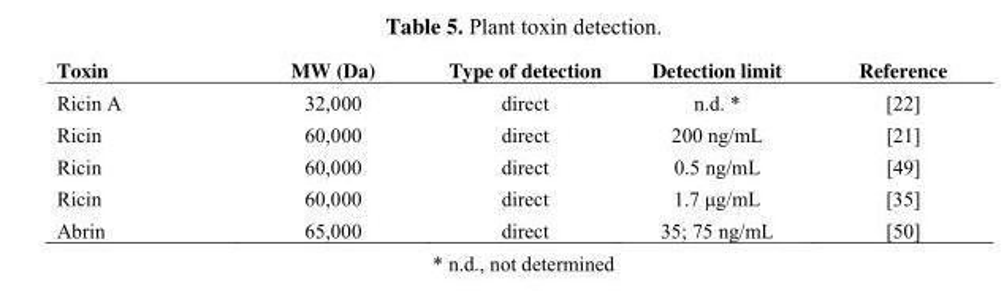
<table><thead><tr><td>Toxin</td><td>MW (Da)</td><td>Type of detection</td><td>Detection limit</td><td>Reference</td></tr></thead><tbody><tr><td>Ricin A</td><td>32,000</td><td>direct</td><td>n.d. *</td><td>[22]</td></tr><tr><td>Ricin</td><td>60,000</td><td>direct</td><td>200 ng/mL</td><td>[21]</td></tr><tr><td>Ricin</td><td>60,000</td><td>direct</td><td>0.5 ng/mL</td><td>[49]</td></tr><tr><td>Ricin</td><td>60,000</td><td>direct</td><td>1.7 μg/mL</td><td>[35]</td></tr><tr><td>Abrin</td><td>65,000</td><td>direct</td><td>35; 75 ng/mL</td><td>[50]</td></tr></tbody></table>